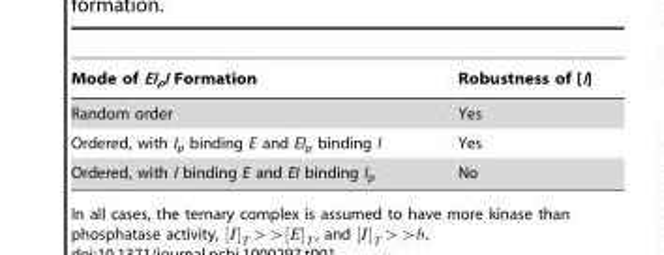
<table><thead><tr><td>Mode of EI<sub>p</sub>I Formation</td><td>Robustness of [I]</td></tr></thead><tbody><tr><td>Random order</td><td>Yes</td></tr><tr><td>Ordered, with I<sub>p</sub> binding E and EI<sub>p</sub> binding I</td><td>Yes</td></tr><tr><td>Ordered, with I binding E and EI binding I<sub>p</sub></td><td>No</td></tr></tbody></table>